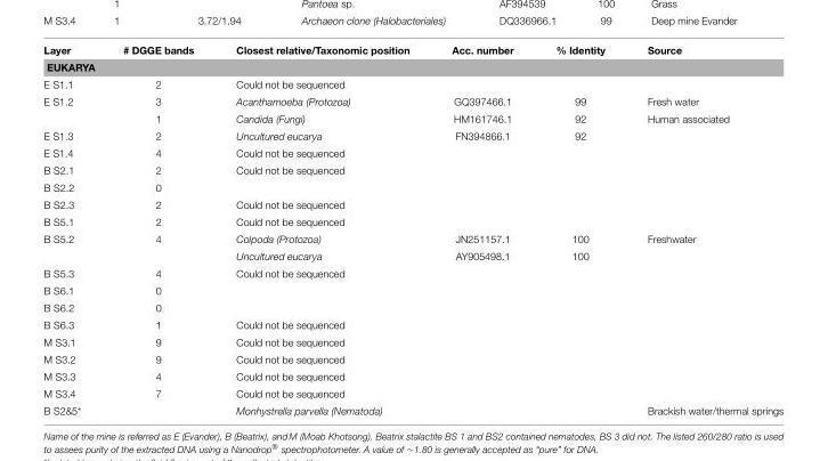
<table><thead><tr><td>Layer</td><td># DGGE bands</td><td>Closest relative/Taxonomic position</td><td>Acc. number</td><td>% Identity</td><td>Source</td></tr></thead><tbody><tr><td colspan="6">EUKARYA</td></tr><tr><td>E S1.1</td><td>2</td><td>Could not be sequenced</td><td></td><td></td><td></td></tr><tr><td rowspan="2">E S1.2</td><td>3</td><td>Acanthamoeba (Protozoa)</td><td>GQ397466.1</td><td>99</td><td>Fresh water</td></tr><tr><td>1</td><td>Candida (Fungi)</td><td>HM161746.1</td><td>92</td><td>Human associated</td></tr><tr><td>E S1.3</td><td>2</td><td>Uncultured eucarya</td><td>FN394866.1</td><td>92</td><td></td></tr><tr><td>E S1.4</td><td>4</td><td>Could not be sequenced</td><td></td><td></td><td></td></tr><tr><td>B S2.1</td><td>2</td><td>Could not be sequenced</td><td></td><td></td><td></td></tr><tr><td>B S2.2</td><td>0</td><td></td><td></td><td></td><td></td></tr><tr><td>B S2.3</td><td>2</td><td>Could not be sequenced</td><td></td><td></td><td></td></tr><tr><td>B S5.1</td><td>2</td><td>Could not be sequenced</td><td></td><td></td><td></td></tr><tr><td rowspan="2">B S5.2</td><td>4</td><td>Colpoda (Protozoa)</td><td>JN251157.1</td><td>100</td><td>Freshwater</td></tr><tr><td></td><td>Uncultured eucarya</td><td>AY905498.1</td><td>100</td><td></td></tr><tr><td>B S5.3</td><td>4</td><td>Could not be sequenced</td><td></td><td></td><td></td></tr><tr><td>B S6.1</td><td>0</td><td></td><td></td><td></td><td></td></tr><tr><td>B S6.2</td><td>0</td><td></td><td></td><td></td><td></td></tr><tr><td>B S6.3</td><td>1</td><td>Could not be sequenced</td><td></td><td></td><td></td></tr><tr><td>M S3.1</td><td>9</td><td>Could not be sequenced</td><td></td><td></td><td></td></tr><tr><td>M S3.2</td><td>9</td><td>Could not be sequenced</td><td></td><td></td><td></td></tr><tr><td>M S3.3</td><td>4</td><td>Could not be sequenced</td><td></td><td></td><td></td></tr><tr><td>M S3.4</td><td>7</td><td>Could not be sequenced</td><td></td><td></td><td></td></tr><tr><td>B S2&amp;5*</td><td></td><td>Monhystrella parvella (Nematoda)</td><td></td><td></td><td>Brackish water/thermal springs</td></tr></tbody></table>